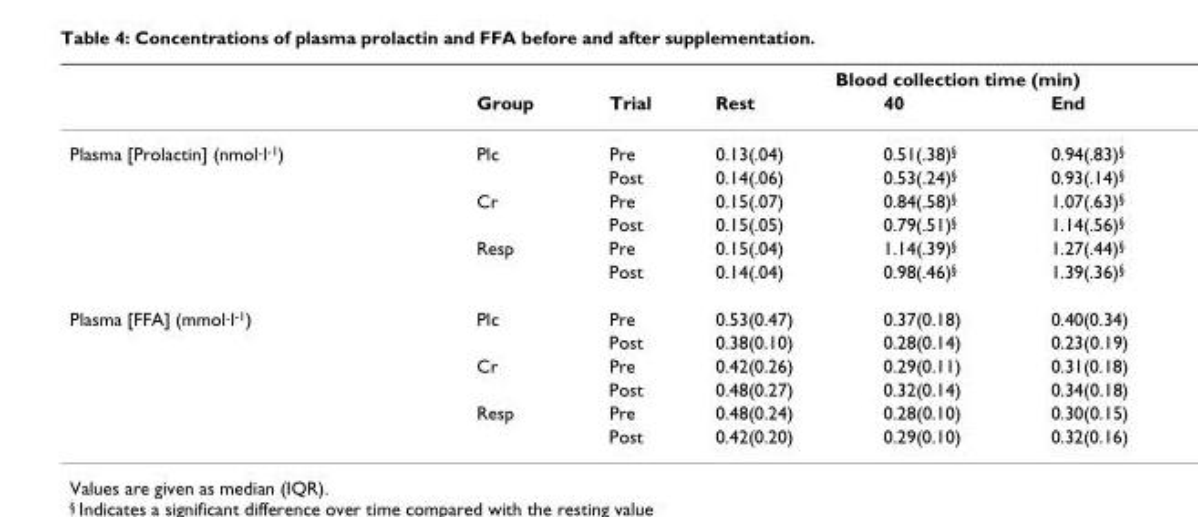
<table><thead><tr><td rowspan="2"></td><td rowspan="2">Group</td><td rowspan="2">Trial</td><td colspan="3">Blood collection time (min)</td></tr><tr><td>Rest</td><td>40</td><td>End</td></tr></thead><tbody><tr><td rowspan="6">Plasma [Prolactin] (nmol·l<sup>-1</sup>)</td><td>Plc</td><td>Pre</td><td>0.13(.04)</td><td>0.51(.38)<sup>§</sup></td><td>0.94(.83)<sup>§</sup></td></tr><tr><td></td><td>Post</td><td>0.14(.06)</td><td>0.53(.24)<sup>§</sup></td><td>0.93(.14)<sup>§</sup></td></tr><tr><td>Cr</td><td>Pre</td><td>0.15(.07)</td><td>0.84(.58)<sup>§</sup></td><td>1.07(.63)<sup>§</sup></td></tr><tr><td></td><td>Post</td><td>0.15(.05)</td><td>0.79(.51)<sup>§</sup></td><td>1.14(.56)<sup>§</sup></td></tr><tr><td>Resp</td><td>Pre</td><td>0.15(.04)</td><td>1.14(.39)<sup>§</sup></td><td>1.27(.44)<sup>§</sup></td></tr><tr><td></td><td>Post</td><td>0.14(.04)</td><td>0.98(.46)<sup>§</sup></td><td>1.39(.36)<sup>§</sup></td></tr><tr><td rowspan="6">Plasma [FFA] (mmol·l<sup>-1</sup>)</td><td>Plc</td><td>Pre</td><td>0.53(0.47)</td><td>0.37(0.18)</td><td>0.40(0.34)</td></tr><tr><td></td><td>Post</td><td>0.38(0.10)</td><td>0.28(0.14)</td><td>0.23(0.19)</td></tr><tr><td>Cr</td><td>Pre</td><td>0.42(0.26)</td><td>0.29(0.11)</td><td>0.31(0.18)</td></tr><tr><td></td><td>Post</td><td>0.48(0.27)</td><td>0.32(0.14)</td><td>0.34(0.18)</td></tr><tr><td>Resp</td><td>Pre</td><td>0.48(0.24)</td><td>0.28(0.10)</td><td>0.30(0.15)</td></tr><tr><td></td><td>Post</td><td>0.42(0.20)</td><td>0.29(0.10)</td><td>0.32(0.16)</td></tr></tbody></table>